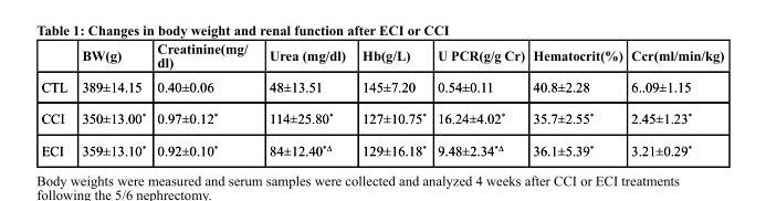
<table><thead><tr><td></td><td>bW(g)</td><td>Creatinine(mg/ dl)</td><td>Urea (mg/dl)</td><td>Hb(g/L)</td><td>U PCR(g/g Cr)</td><td>Hematocrit(%)</td><td>Ccr(ml/min/kg)</td></tr></thead><tbody><tr><td>CTL</td><td>389±14.15</td><td>0.40±0.06</td><td>48±13.51</td><td>145±7.20</td><td>0.54±0.11</td><td>40.8±2.28</td><td>6..09±1.15</td></tr><tr><td>CCI</td><td>350±13.00*</td><td>0.97±0.12*</td><td>114±25.80*</td><td>127±10.75*</td><td>16.24±4.02*</td><td>35.7±2.55*</td><td>2.45±1.23*</td></tr><tr><td>ECI</td><td>359±13.10*</td><td>0.92±0.10*</td><td>84±12.40*Δ</td><td>129±16.18*</td><td>9.48±2.34*Δ</td><td>36.1±5.39*</td><td>3.21±0.29*</td></tr></tbody></table>